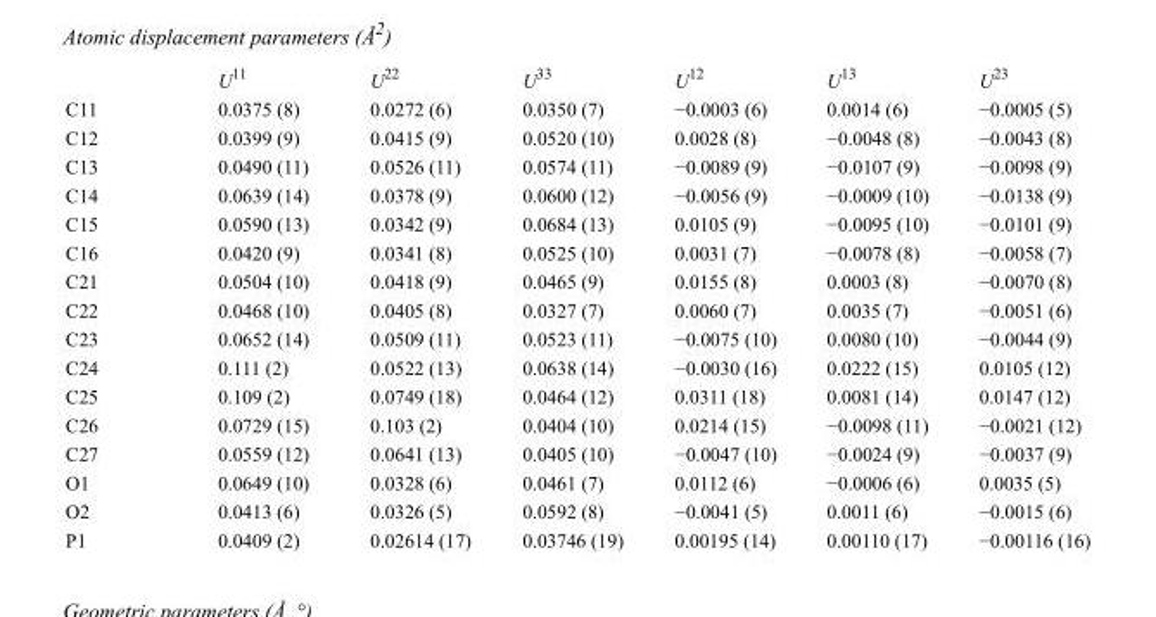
<table><thead><tr><td></td><td>U<sup>11</sup></td><td>U<sup>22</sup></td><td>U<sup>33</sup></td><td>U<sup>12</sup></td><td>U<sup>13</sup></td><td>U<sup>23</sup></td></tr></thead><tbody><tr><td>C11</td><td>0.0375 (8)</td><td>0.0272 (6)</td><td>0.0350 (7)</td><td>−0.0003 (6)</td><td>0.0014 (6)</td><td>−0.0005 (5)</td></tr><tr><td>C12</td><td>0.0399 (9)</td><td>0.0415 (9)</td><td>0.0520 (10)</td><td>0.0028 (8)</td><td>−0.0048 (8)</td><td>−0.0043 (8)</td></tr><tr><td>C13</td><td>0.0490 (11)</td><td>0.0526 (11)</td><td>0.0574 (11)</td><td>−0.0089 (9)</td><td>−0.0107 (9)</td><td>−0.0098 (9)</td></tr><tr><td>C14</td><td>0.0639 (14)</td><td>0.0378 (9)</td><td>0.0600 (12)</td><td>−0.0056 (9)</td><td>−0.0009 (10)</td><td>−0.0138 (9)</td></tr><tr><td>C15</td><td>0.0590 (13)</td><td>0.0342 (9)</td><td>0.0684 (13)</td><td>0.0105 (9)</td><td>−0.0095 (10)</td><td>−0.0101 (9)</td></tr><tr><td>C16</td><td>0.0420 (9)</td><td>0.0341 (8)</td><td>0.0525 (10)</td><td>0.0031 (7)</td><td>−0.0078 (8)</td><td>−0.0058 (7)</td></tr><tr><td>C21</td><td>0.0504 (10)</td><td>0.0418 (9)</td><td>0.0465 (9)</td><td>0.0155 (8)</td><td>0.0003 (8)</td><td>−0.0070 (8)</td></tr><tr><td>C22</td><td>0.0468 (10)</td><td>0.0405 (8)</td><td>0.0327 (7)</td><td>0.0060 (7)</td><td>0.0035 (7)</td><td>−0.0051 (6)</td></tr><tr><td>C23</td><td>0.0652 (14)</td><td>0.0509 (11)</td><td>0.0523 (11)</td><td>−0.0075 (10)</td><td>0.0080 (10)</td><td>−0.0044 (9)</td></tr><tr><td>C24</td><td>0.111 (2)</td><td>0.0522 (13)</td><td>0.0638 (14)</td><td>−0.0030 (16)</td><td>0.0222 (15)</td><td>0.0105 (12)</td></tr><tr><td>C25</td><td>0.109 (2)</td><td>0.0749 (18)</td><td>0.0464 (12)</td><td>0.0311 (18)</td><td>0.0081 (14)</td><td>0.0147 (12)</td></tr><tr><td>C26</td><td>0.0729 (15)</td><td>0.103 (2)</td><td>0.0404 (10)</td><td>0.0214 (15)</td><td>−0.0098 (11)</td><td>−0.0021 (12)</td></tr><tr><td>C27</td><td>0.0559 (12)</td><td>0.0641 (13)</td><td>0.0405 (10)</td><td>−0.0047 (10)</td><td>−0.0024 (9)</td><td>−0.0037 (9)</td></tr><tr><td>O1</td><td>0.0649 (10)</td><td>0.0328 (6)</td><td>0.0461 (7)</td><td>0.0112 (6)</td><td>−0.0006 (6)</td><td>0.0035 (5)</td></tr><tr><td>O2</td><td>0.0413 (6)</td><td>0.0326 (5)</td><td>0.0592 (8)</td><td>−0.0041 (5)</td><td>0.0011 (6)</td><td>−0.0015 (6)</td></tr><tr><td>P1</td><td>0.0409 (2)</td><td>0.02614 (17)</td><td>0.03746 (19)</td><td>0.00195 (14)</td><td>0.00110 (17)</td><td>−0.00116 (16)</td></tr></tbody></table>